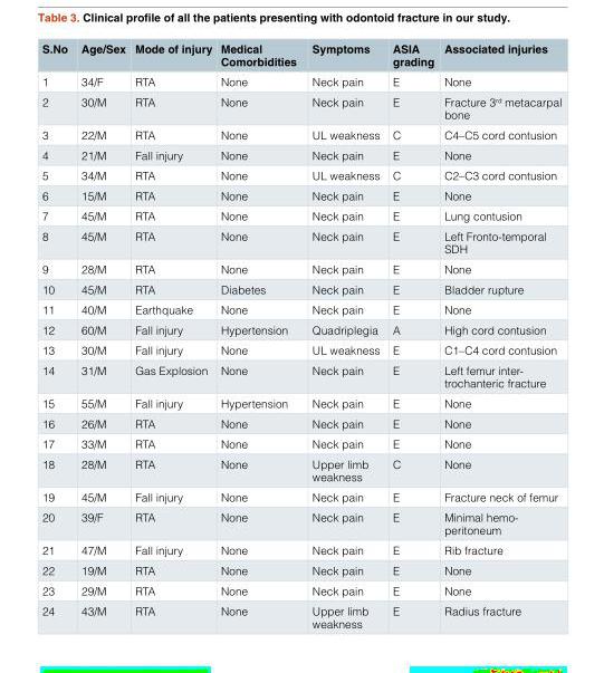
<table><thead><tr><td>S.No</td><td>Age/Sex</td><td>Mode of injury</td><td>Medical Comorbidities</td><td>Symptoms</td><td>ASIA grading</td><td>Associated injuries</td></tr></thead><tbody><tr><td>1</td><td>34/F</td><td>RTA</td><td>None</td><td>Neck pain</td><td>E</td><td>None</td></tr><tr><td>2</td><td>30/M</td><td>RTA</td><td>None</td><td>Neck pain</td><td>E</td><td>Fracture 3<sup>rd</sup> metacarpal bone</td></tr><tr><td>3</td><td>22/M</td><td>RTA</td><td>None</td><td>UL weakness</td><td>C</td><td>C4–C5 cord contusion</td></tr><tr><td>4</td><td>21/M</td><td>Fall injury</td><td>None</td><td>Neck pain</td><td>E</td><td>None</td></tr><tr><td>5</td><td>34/M</td><td>RTA</td><td>None</td><td>UL weakness</td><td>C</td><td>C2–C3 cord contusion</td></tr><tr><td>6</td><td>15/M</td><td>RTA</td><td>None</td><td>Neck pain</td><td>E</td><td>None</td></tr><tr><td>7</td><td>45/M</td><td>RTA</td><td>None</td><td>Neck pain</td><td>E</td><td>Lung contusion</td></tr><tr><td>8</td><td>45/M</td><td>RTA</td><td>None</td><td>Neck pain</td><td>E</td><td>Left Fronto-temporal SDH</td></tr><tr><td>9</td><td>28/M</td><td>RTA</td><td>None</td><td>Neck pain</td><td>E</td><td>None</td></tr><tr><td>10</td><td>45/M</td><td>RTA</td><td>Diabetes</td><td>Neck pain</td><td>E</td><td>Bladder rupture</td></tr><tr><td>11</td><td>40/M</td><td>Earthquake</td><td>None</td><td>Neck pain</td><td>E</td><td>None</td></tr><tr><td>12</td><td>60/M</td><td>Fall injury</td><td>Hypertension</td><td>Quadriplegia</td><td>A</td><td>High cord contusion</td></tr><tr><td>13</td><td>30/M</td><td>Fall injury</td><td>None</td><td>UL weakness</td><td>E</td><td>C1–C4 cord contusion</td></tr><tr><td>14</td><td>31/M</td><td>Gas Explosion</td><td>None</td><td>Neck pain</td><td>E</td><td>Left femur inter- trochanteric fracture</td></tr><tr><td>15</td><td>55/M</td><td>Fall injury</td><td>Hypertension</td><td>Neck pain</td><td>E</td><td>None</td></tr><tr><td>16</td><td>26/M</td><td>RTA</td><td>None</td><td>Neck pain</td><td>E</td><td>None</td></tr><tr><td>17</td><td>33/M</td><td>RTA</td><td>None</td><td>Neck pain</td><td>E</td><td>None</td></tr><tr><td>18</td><td>28/M</td><td>RTA</td><td>None</td><td>Upper limb weakness</td><td>C</td><td>None</td></tr><tr><td>19</td><td>45/M</td><td>Fall injury</td><td>None</td><td>Neck pain</td><td>E</td><td>Fracture neck of femur</td></tr><tr><td>20</td><td>39/F</td><td>RTA</td><td>None</td><td>Neck pain</td><td>E</td><td>Minimal hemo- peritoneum</td></tr><tr><td>21</td><td>47/M</td><td>Fall injury</td><td>None</td><td>Neck pain</td><td>E</td><td>Rib fracture</td></tr><tr><td>22</td><td>19/M</td><td>RTA</td><td>None</td><td>Neck pain</td><td>E</td><td>None</td></tr><tr><td>23</td><td>29/M</td><td>RTA</td><td>None</td><td>Neck pain</td><td>E</td><td>None</td></tr><tr><td>24</td><td>43/M</td><td>RTA</td><td>None</td><td>Upper limb weakness</td><td>E</td><td>Radius fracture</td></tr></tbody></table>